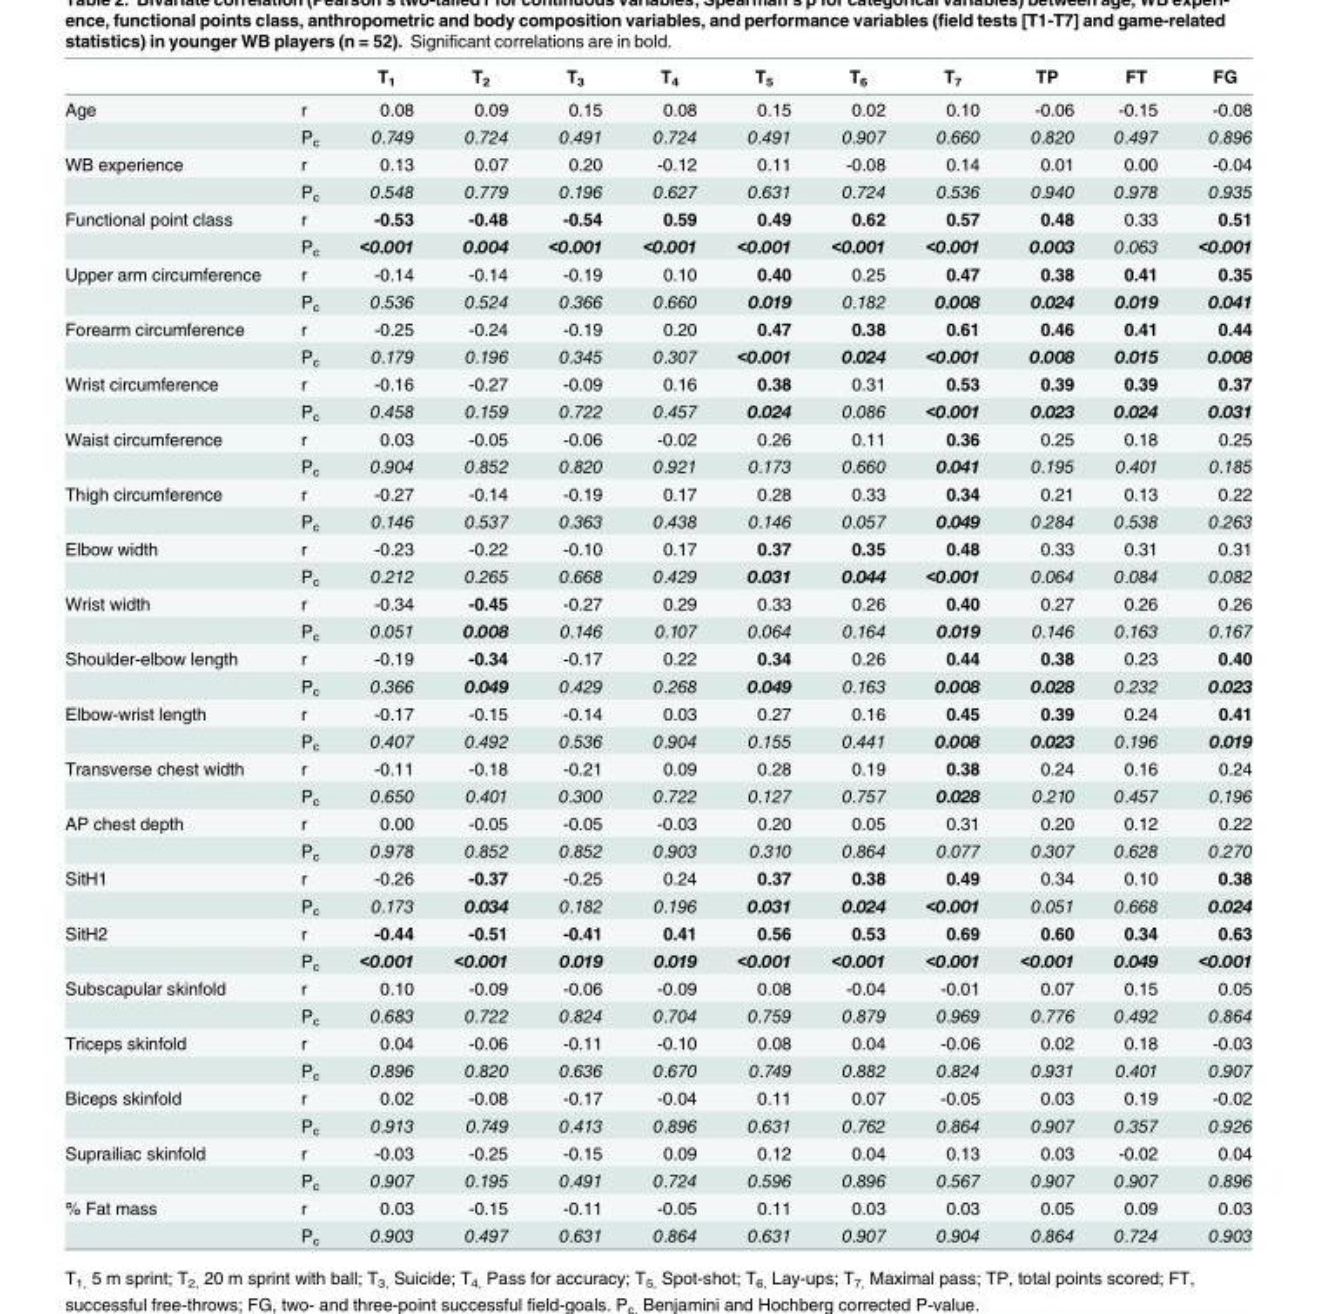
<table><thead><tr><td></td><td></td><td>T<sub>1</sub></td><td>T<sub>2</sub></td><td>T<sub>3</sub></td><td>T<sub>4</sub></td><td>T<sub>5</sub></td><td>T<sub>6</sub></td><td>T<sub>7</sub></td><td>TP</td><td>FT</td><td>FG</td></tr></thead><tbody><tr><td rowspan="2">Age</td><td>r</td><td>0.08</td><td>0.09</td><td>0.15</td><td>0.08</td><td>0.15</td><td>0.02</td><td>0.10</td><td>-0.06</td><td>-0.15</td><td>-0.08</td></tr><tr><td>P<sub>c</sub></td><td>0.749</td><td>0.724</td><td>0.491</td><td>0.724</td><td>0.491</td><td>0.907</td><td>0.660</td><td>0.820</td><td>0.497</td><td>0.896</td></tr><tr><td rowspan="2">WB experience</td><td>r</td><td>0.13</td><td>0.07</td><td>0.20</td><td>-0.12</td><td>0.11</td><td>-0.08</td><td>0.14</td><td>0.01</td><td>0.00</td><td>-0.04</td></tr><tr><td>P<sub>c</sub></td><td>0.548</td><td>0.779</td><td>0.196</td><td>0.627</td><td>0.631</td><td>0.724</td><td>0.536</td><td>0.940</td><td>0.978</td><td>0.935</td></tr><tr><td rowspan="2">Functional point class</td><td>r</td><td>-0.53</td><td>-0.48</td><td>-0.54</td><td>0.59</td><td>0.49</td><td>0.62</td><td>0.57</td><td>0.48</td><td>0.33</td><td>0.51</td></tr><tr><td>P<sub>c</sub></td><td>&lt;0.001</td><td>0.004</td><td>&lt;0.001</td><td>&lt;0.001</td><td>&lt;0.001</td><td>&lt;0.001</td><td>&lt;0.001</td><td>0.003</td><td>0.063</td><td>&lt;0.001</td></tr><tr><td rowspan="2">Upper arm circumference</td><td>r</td><td>-0.14</td><td>-0.14</td><td>-0.19</td><td>0.10</td><td>0.40</td><td>0.25</td><td>0.47</td><td>0.38</td><td>0.41</td><td>0.35</td></tr><tr><td>P<sub>c</sub></td><td>0.536</td><td>0.524</td><td>0.366</td><td>0.660</td><td>0.019</td><td>0.182</td><td>0.008</td><td>0.024</td><td>0.019</td><td>0.041</td></tr><tr><td rowspan="2">Forearm circumference</td><td>r</td><td>-0.25</td><td>-0.24</td><td>-0.19</td><td>0.20</td><td>0.47</td><td>0.38</td><td>0.61</td><td>0.46</td><td>0.41</td><td>0.44</td></tr><tr><td>P<sub>c</sub></td><td>0.179</td><td>0.196</td><td>0.345</td><td>0.307</td><td>&lt;0.001</td><td>0.024</td><td>&lt;0.001</td><td>0.008</td><td>0.015</td><td>0.008</td></tr><tr><td rowspan="2">Wrist circumference</td><td>r</td><td>-0.16</td><td>-0.27</td><td>-0.09</td><td>0.16</td><td>0.38</td><td>0.31</td><td>0.53</td><td>0.39</td><td>0.39</td><td>0.37</td></tr><tr><td>P<sub>c</sub></td><td>0.458</td><td>0.159</td><td>0.722</td><td>0.457</td><td>0.024</td><td>0.086</td><td>&lt;0.001</td><td>0.023</td><td>0.024</td><td>0.031</td></tr><tr><td rowspan="2">Waist circumference</td><td>r</td><td>0.03</td><td>-0.05</td><td>-0.06</td><td>-0.02</td><td>0.26</td><td>0.11</td><td>0.36</td><td>0.25</td><td>0.18</td><td>0.25</td></tr><tr><td>P<sub>c</sub></td><td>0.904</td><td>0.852</td><td>0.820</td><td>0.921</td><td>0.173</td><td>0.660</td><td>0.041</td><td>0.195</td><td>0.401</td><td>0.185</td></tr><tr><td rowspan="2">Thigh circumference</td><td>r</td><td>-0.27</td><td>-0.14</td><td>-0.19</td><td>0.17</td><td>0.28</td><td>0.33</td><td>0.34</td><td>0.21</td><td>0.13</td><td>0.22</td></tr><tr><td>P<sub>c</sub></td><td>0.146</td><td>0.537</td><td>0.363</td><td>0.438</td><td>0.146</td><td>0.057</td><td>0.049</td><td>0.284</td><td>0.538</td><td>0.263</td></tr><tr><td rowspan="2">Elbow width</td><td>r</td><td>-0.23</td><td>-0.22</td><td>-0.10</td><td>0.17</td><td>0.37</td><td>0.35</td><td>0.48</td><td>0.33</td><td>0.31</td><td>0.31</td></tr><tr><td>P<sub>c</sub></td><td>0.212</td><td>0.265</td><td>0.668</td><td>0.429</td><td>0.031</td><td>0.044</td><td>&lt;0.001</td><td>0.064</td><td>0.084</td><td>0.082</td></tr><tr><td rowspan="2">Wrist width</td><td>r</td><td>-0.34</td><td>-0.45</td><td>-0.27</td><td>0.29</td><td>0.33</td><td>0.26</td><td>0.40</td><td>0.27</td><td>0.26</td><td>0.26</td></tr><tr><td>P<sub>c</sub></td><td>0.051</td><td>0.008</td><td>0.146</td><td>0.107</td><td>0.064</td><td>0.164</td><td>0.019</td><td>0.146</td><td>0.163</td><td>0.167</td></tr><tr><td rowspan="2">Shoulder-elbow length</td><td>r</td><td>-0.19</td><td>-0.34</td><td>-0.17</td><td>0.22</td><td>0.34</td><td>0.26</td><td>0.44</td><td>0.38</td><td>0.23</td><td>0.40</td></tr><tr><td>P<sub>c</sub></td><td>0.366</td><td>0.049</td><td>0.429</td><td>0.268</td><td>0.049</td><td>0.163</td><td>0.008</td><td>0.028</td><td>0.232</td><td>0.023</td></tr><tr><td rowspan="2">Elbow-wrist length</td><td>r</td><td>-0.17</td><td>-0.15</td><td>-0.14</td><td>0.03</td><td>0.27</td><td>0.16</td><td>0.45</td><td>0.39</td><td>0.24</td><td>0.41</td></tr><tr><td>P<sub>c</sub></td><td>0.407</td><td>0.492</td><td>0.536</td><td>0.904</td><td>0.155</td><td>0.441</td><td>0.008</td><td>0.023</td><td>0.196</td><td>0.019</td></tr><tr><td rowspan="2">Transverse chest width</td><td>r</td><td>-0.11</td><td>-0.18</td><td>-0.21</td><td>0.09</td><td>0.28</td><td>0.19</td><td>0.38</td><td>0.24</td><td>0.16</td><td>0.24</td></tr><tr><td>P<sub>c</sub></td><td>0.650</td><td>0.401</td><td>0.300</td><td>0.722</td><td>0.127</td><td>0.757</td><td>0.028</td><td>0.210</td><td>0.457</td><td>0.196</td></tr><tr><td rowspan="2">AP chest depth</td><td>r</td><td>0.00</td><td>-0.05</td><td>-0.05</td><td>-0.03</td><td>0.20</td><td>0.05</td><td>0.31</td><td>0.20</td><td>0.12</td><td>0.22</td></tr><tr><td>P<sub>c</sub></td><td>0.978</td><td>0.852</td><td>0.852</td><td>0.903</td><td>0.310</td><td>0.864</td><td>0.077</td><td>0.307</td><td>0.628</td><td>0.270</td></tr><tr><td rowspan="2">SitH1</td><td>r</td><td>-0.26</td><td>-0.37</td><td>-0.25</td><td>0.24</td><td>0.37</td><td>0.38</td><td>0.49</td><td>0.34</td><td>0.10</td><td>0.38</td></tr><tr><td>P<sub>c</sub></td><td>0.173</td><td>0.034</td><td>0.182</td><td>0.196</td><td>0.031</td><td>0.024</td><td>&lt;0.001</td><td>0.051</td><td>0.668</td><td>0.024</td></tr><tr><td rowspan="2">SitH2</td><td>r</td><td>-0.44</td><td>-0.51</td><td>-0.41</td><td>0.41</td><td>0.56</td><td>0.53</td><td>0.69</td><td>0.60</td><td>0.34</td><td>0.63</td></tr><tr><td>P<sub>c</sub></td><td>&lt;0.001</td><td>&lt;0.001</td><td>0.019</td><td>0.019</td><td>&lt;0.001</td><td>&lt;0.001</td><td>&lt;0.001</td><td>&lt;0.001</td><td>0.049</td><td>&lt;0.001</td></tr><tr><td rowspan="2">Subscapular skinfold</td><td>r</td><td>0.10</td><td>-0.09</td><td>-0.06</td><td>-0.09</td><td>0.08</td><td>-0.04</td><td>-0.01</td><td>0.07</td><td>0.15</td><td>0.05</td></tr><tr><td>P<sub>c</sub></td><td>0.683</td><td>0.722</td><td>0.824</td><td>0.704</td><td>0.759</td><td>0.879</td><td>0.969</td><td>0.776</td><td>0.492</td><td>0.864</td></tr><tr><td rowspan="2">Triceps skinfold</td><td>r</td><td>0.04</td><td>-0.06</td><td>-0.11</td><td>-0.10</td><td>0.08</td><td>0.04</td><td>-0.06</td><td>0.02</td><td>0.18</td><td>-0.03</td></tr><tr><td>P<sub>c</sub></td><td>0.896</td><td>0.820</td><td>0.636</td><td>0.670</td><td>0.749</td><td>0.882</td><td>0.824</td><td>0.931</td><td>0.401</td><td>0.907</td></tr><tr><td rowspan="2">Biceps skinfold</td><td>r</td><td>0.02</td><td>-0.08</td><td>-0.17</td><td>-0.04</td><td>0.11</td><td>0.07</td><td>-0.05</td><td>0.03</td><td>0.19</td><td>-0.02</td></tr><tr><td>P<sub>c</sub></td><td>0.913</td><td>0.749</td><td>0.413</td><td>0.896</td><td>0.631</td><td>0.762</td><td>0.864</td><td>0.907</td><td>0.357</td><td>0.926</td></tr><tr><td rowspan="2">Suprailiac skinfold</td><td>r</td><td>-0.03</td><td>-0.25</td><td>-0.15</td><td>0.09</td><td>0.12</td><td>0.04</td><td>0.13</td><td>0.03</td><td>-0.02</td><td>0.04</td></tr><tr><td>P<sub>c</sub></td><td>0.907</td><td>0.195</td><td>0.491</td><td>0.724</td><td>0.596</td><td>0.896</td><td>0.567</td><td>0.907</td><td>0.907</td><td>0.896</td></tr><tr><td rowspan="2">% Fat mass</td><td>r</td><td>0.03</td><td>-0.15</td><td>-0.11</td><td>-0.05</td><td>0.11</td><td>0.03</td><td>0.03</td><td>0.05</td><td>0.09</td><td>0.03</td></tr><tr><td>P<sub>c</sub></td><td>0.903</td><td>0.497</td><td>0.631</td><td>0.864</td><td>0.631</td><td>0.907</td><td>0.904</td><td>0.864</td><td>0.724</td><td>0.903</td></tr></tbody></table>